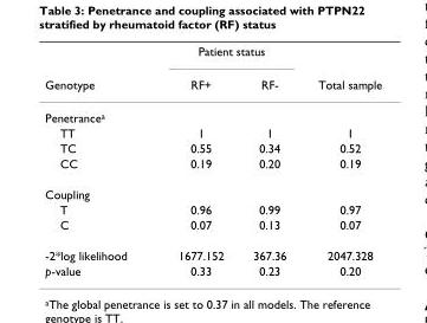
<table><thead><tr><td rowspan="2">Genotype</td><td colspan="2">Patient status</td><td rowspan="2">Total sample</td></tr><tr><td>RF+</td><td>RF-</td></tr></thead><tbody><tr><td colspan="4">Penetrance<sup>a</sup></td></tr><tr><td>TT</td><td>1</td><td>1</td><td>1</td></tr><tr><td>TC</td><td>0.55</td><td>0.34</td><td>0.52</td></tr><tr><td>CC</td><td>0.19</td><td>0.20</td><td>0.19</td></tr><tr><td colspan="4">Coupling</td></tr><tr><td>T</td><td>0.96</td><td>0.99</td><td>0.97</td></tr><tr><td>C</td><td>0.07</td><td>0.13</td><td>0.07</td></tr><tr><td>-2*log likelihood</td><td>1677.152</td><td>367.36</td><td>2047.328</td></tr><tr><td>p-value</td><td>0.33</td><td>0.23</td><td>0.20</td></tr></tbody></table>